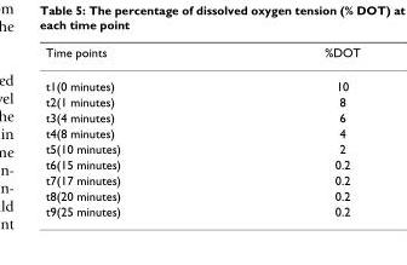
<table><thead><tr><td>Time points</td><td>%DOT</td></tr></thead><tbody><tr><td>t1(0 minutes)</td><td>10</td></tr><tr><td>t2(1 minutes)</td><td>8</td></tr><tr><td>t3(4 minutes)</td><td>6</td></tr><tr><td>t4(8 minutes)</td><td>4</td></tr><tr><td>t5(10 minutes)</td><td>2</td></tr><tr><td>t6(15 minutes)</td><td>0.2</td></tr><tr><td>t7(17 minutes)</td><td>0.2</td></tr><tr><td>t8(20 minutes)</td><td>0.2</td></tr><tr><td>t9(25 minutes)</td><td>0.2</td></tr></tbody></table>